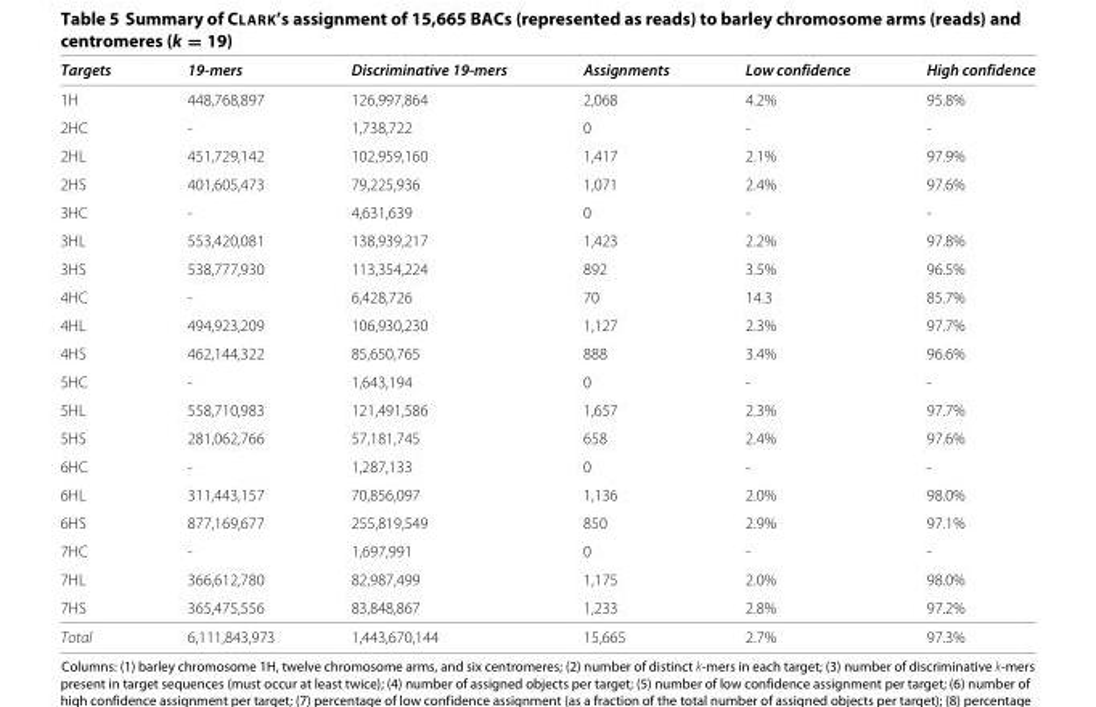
<table><thead><tr><td>Targets</td><td>19-mers</td><td>Discriminative 19-mers</td><td>Assignments</td><td>Low confidence</td><td>High confidence</td></tr></thead><tbody><tr><td>1H</td><td>448,768,897</td><td>126,997,864</td><td>2,068</td><td>4.2%</td><td>95.8%</td></tr><tr><td>2HC</td><td>-</td><td>1,738,722</td><td>0</td><td>-</td><td>-</td></tr><tr><td>2HL</td><td>451,729,142</td><td>102,959,160</td><td>1,417</td><td>2.1%</td><td>97.9%</td></tr><tr><td>2HS</td><td>401,605,473</td><td>79,225,936</td><td>1,071</td><td>2.4%</td><td>97.6%</td></tr><tr><td>3HC</td><td>-</td><td>4,631,639</td><td>0</td><td>-</td><td>-</td></tr><tr><td>3HL</td><td>553,420,081</td><td>138,939,217</td><td>1,423</td><td>2.2%</td><td>97.8%</td></tr><tr><td>3HS</td><td>538,777,930</td><td>113,354,224</td><td>892</td><td>3.5%</td><td>96.5%</td></tr><tr><td>4HC</td><td>-</td><td>6,428,726</td><td>70</td><td>14.3</td><td>85.7%</td></tr><tr><td>4HL</td><td>494,923,209</td><td>106,930,230</td><td>1,127</td><td>2.3%</td><td>97.7%</td></tr><tr><td>4HS</td><td>462,144,322</td><td>85,650,765</td><td>888</td><td>3.4%</td><td>96.6%</td></tr><tr><td>5HC</td><td>-</td><td>1,643,194</td><td>0</td><td>-</td><td>-</td></tr><tr><td>5HL</td><td>558,710,983</td><td>121,491,586</td><td>1,657</td><td>2.3%</td><td>97.7%</td></tr><tr><td>5HS</td><td>281,062,766</td><td>57,181,745</td><td>658</td><td>2.4%</td><td>97.6%</td></tr><tr><td>6HC</td><td>-</td><td>1,287,133</td><td>0</td><td>-</td><td>-</td></tr><tr><td>6HL</td><td>311,443,157</td><td>70,856,097</td><td>1,136</td><td>2.0%</td><td>98.0%</td></tr><tr><td>6HS</td><td>877,169,677</td><td>255,819,549</td><td>850</td><td>2.9%</td><td>97.1%</td></tr><tr><td>7HC</td><td>-</td><td>1,697,991</td><td>0</td><td>-</td><td>-</td></tr><tr><td>7HL</td><td>366,612,780</td><td>82,987,499</td><td>1,175</td><td>2.0%</td><td>98.0%</td></tr><tr><td>7HS</td><td>365,475,556</td><td>83,848,867</td><td>1,233</td><td>2.8%</td><td>97.2%</td></tr><tr><td>Total</td><td>6,111,843,973</td><td>1,443,670,144</td><td>15,665</td><td>2.7%</td><td>97.3%</td></tr></tbody></table>